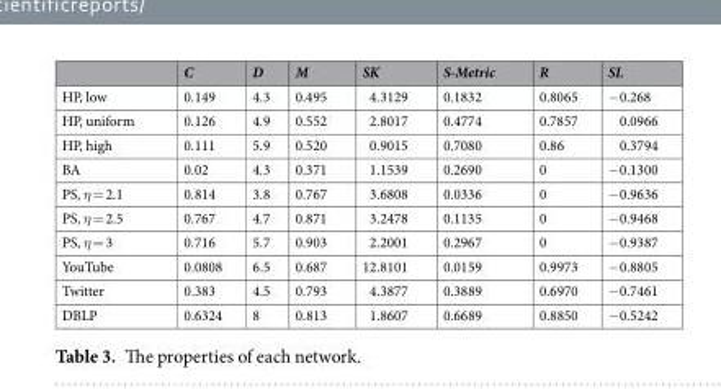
<table><thead><tr><td></td><td>C</td><td>D</td><td>M</td><td>SK</td><td>S-Metric</td><td>R</td><td>SL</td></tr></thead><tbody><tr><td>HP, low</td><td>0.149</td><td>4.3</td><td>0.495</td><td>4.3129</td><td>0.1832</td><td>0.8065</td><td>−0.268</td></tr><tr><td>HP, uniform</td><td>0.126</td><td>4.9</td><td>0.552</td><td>2.8017</td><td>0.4774</td><td>0.7857</td><td>0.0966</td></tr><tr><td>HP, high</td><td>0.111</td><td>5.9</td><td>0.520</td><td>0.9015</td><td>0.7080</td><td>0.86</td><td>0.3794</td></tr><tr><td>BA</td><td>0.02</td><td>4.3</td><td>0.371</td><td>1.1539</td><td>0.2690</td><td>0</td><td>−0.1300</td></tr><tr><td>PS, η = 2.1</td><td>0.814</td><td>3.8</td><td>0.767</td><td>3.6808</td><td>0.0336</td><td>0</td><td>−0.9636</td></tr><tr><td>PS, η = 2.5</td><td>0.767</td><td>4.7</td><td>0.871</td><td>3.2478</td><td>0.1135</td><td>0</td><td>−0.9468</td></tr><tr><td>PS, η = 3</td><td>0.716</td><td>5.7</td><td>0.903</td><td>2.2001</td><td>0.2967</td><td>0</td><td>−0.9387</td></tr><tr><td>YouTube</td><td>0.0808</td><td>6.5</td><td>0.687</td><td>12.8101</td><td>0.0159</td><td>0.9973</td><td>−0.8805</td></tr><tr><td>Twitter</td><td>0.383</td><td>4.5</td><td>0.793</td><td>4.3877</td><td>0.3889</td><td>0.6970</td><td>−0.7461</td></tr><tr><td>DBLP</td><td>0.6324</td><td>8</td><td>0.813</td><td>1.8607</td><td>0.6689</td><td>0.8850</td><td>−0.5242</td></tr></tbody></table>